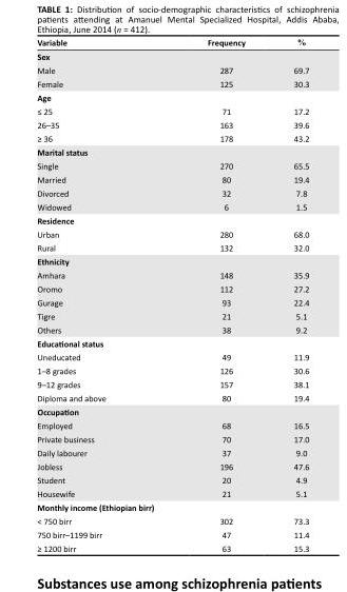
<table><thead><tr><td>Variable</td><td>Frequency</td><td>%</td></tr></thead><tbody><tr><td colspan="3">Sex</td></tr><tr><td>Male</td><td>287</td><td>69.7</td></tr><tr><td>Female</td><td>125</td><td>30.3</td></tr><tr><td colspan="3">Age</td></tr><tr><td>≤ 25</td><td>71</td><td>17.2</td></tr><tr><td>26–35</td><td>163</td><td>39.6</td></tr><tr><td>≥ 36</td><td>178</td><td>43.2</td></tr><tr><td colspan="3">Marital status</td></tr><tr><td>Single</td><td>270</td><td>65.5</td></tr><tr><td>Married</td><td>80</td><td>19.4</td></tr><tr><td>Divorced</td><td>32</td><td>7.8</td></tr><tr><td>Widowed</td><td>6</td><td>1.5</td></tr><tr><td colspan="3">Residence</td></tr><tr><td>Urban</td><td>280</td><td>68.0</td></tr><tr><td>Rural</td><td>132</td><td>32.0</td></tr><tr><td colspan="3">Ethnicity</td></tr><tr><td>Amhara</td><td>148</td><td>35.9</td></tr><tr><td>Oromo</td><td>112</td><td>27.2</td></tr><tr><td>Gurage</td><td>93</td><td>22.4</td></tr><tr><td>Tigre</td><td>21</td><td>5.1</td></tr><tr><td>Others</td><td>38</td><td>9.2</td></tr><tr><td colspan="3">Educational status</td></tr><tr><td>Uneducated</td><td>49</td><td>11.9</td></tr><tr><td>1–8 grades</td><td>126</td><td>30.6</td></tr><tr><td>9–12 grades</td><td>157</td><td>38.1</td></tr><tr><td>Diploma and above</td><td>80</td><td>19.4</td></tr><tr><td colspan="3">Occupation</td></tr><tr><td>Employed</td><td>68</td><td>16.5</td></tr><tr><td>Private business</td><td>70</td><td>17.0</td></tr><tr><td>Daily labourer</td><td>37</td><td>9.0</td></tr><tr><td>Jobless</td><td>196</td><td>47.6</td></tr><tr><td>Student</td><td>20</td><td>4.9</td></tr><tr><td>Housewife</td><td>21</td><td>5.1</td></tr><tr><td colspan="3">Monthly income (Ethiopian birr)</td></tr><tr><td>&lt; 750 birr</td><td>302</td><td>73.3</td></tr><tr><td>750 birr–1199 birr</td><td>47</td><td>11.4</td></tr><tr><td>≥ 1200 birr</td><td>63</td><td>15.3</td></tr></tbody></table>